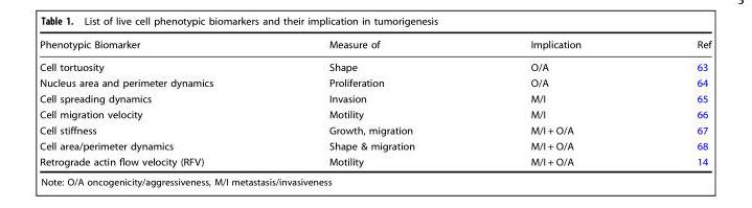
<table><thead><tr><td>Phenotypic Biomarker</td><td>Measure of</td><td>Implication</td><td>Ref</td></tr></thead><tbody><tr><td>Cell tortuosity</td><td>Shape</td><td>O/A</td><td>63</td></tr><tr><td>Nucleus area and perimeter dynamics</td><td>Proliferation</td><td>O/A</td><td>64</td></tr><tr><td>Cell spreading dynamics</td><td>Invasion</td><td>M/I</td><td>65</td></tr><tr><td>Cell migration velocity</td><td>Motility</td><td>M/I</td><td>66</td></tr><tr><td>Cell stiffness</td><td>Growth, migration</td><td>M/I + O/A</td><td>67</td></tr><tr><td>Cell area/perimeter dynamics</td><td>Shape &amp; migration</td><td>M/I + O/A</td><td>68</td></tr><tr><td>Retrograde actin flow velocity (RFV)</td><td>Motility</td><td>M/I + O/A</td><td>14</td></tr></tbody></table>